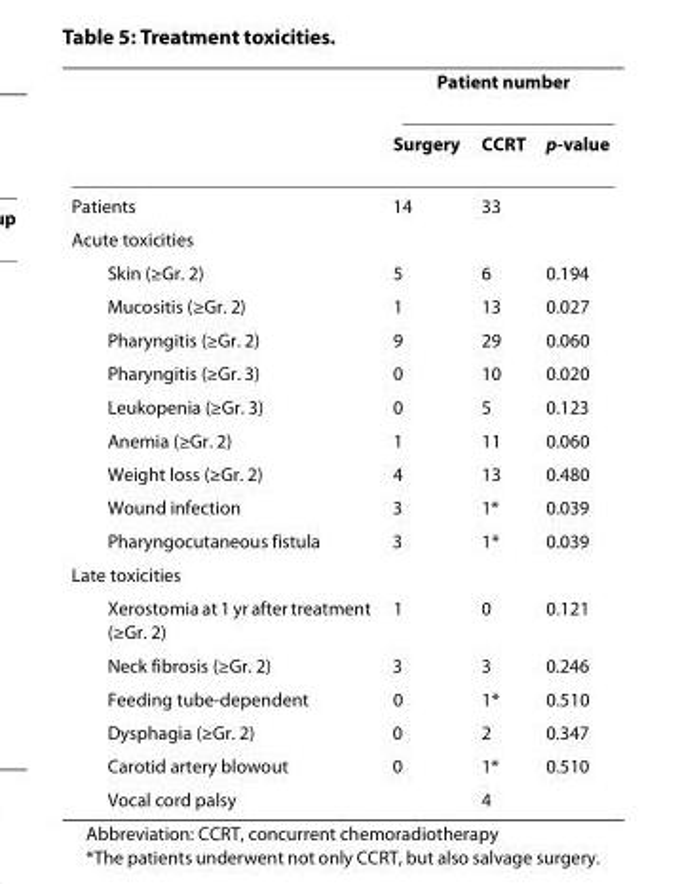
<table><thead><tr><td rowspan="2"></td><td colspan="3">Patient number</td></tr><tr><td>Surgery</td><td>CCRT</td><td>p-value</td></tr></thead><tbody><tr><td>Patients</td><td>14</td><td>33</td><td></td></tr><tr><td colspan="4">Acute toxicities</td></tr><tr><td>Skin (≥Gr. 2)</td><td>5</td><td>6</td><td>0.194</td></tr><tr><td>Mucositis (≥Gr. 2)</td><td>1</td><td>13</td><td>0.027</td></tr><tr><td>Pharyngitis (≥Gr. 2)</td><td>9</td><td>29</td><td>0.060</td></tr><tr><td>Pharyngitis (≥Gr. 3)</td><td>0</td><td>10</td><td>0.020</td></tr><tr><td>Leukopenia (≥Gr. 3)</td><td>0</td><td>5</td><td>0.123</td></tr><tr><td>Anemia (≥Gr. 2)</td><td>1</td><td>11</td><td>0.060</td></tr><tr><td>Weight loss (≥Gr. 2)</td><td>4</td><td>13</td><td>0.480</td></tr><tr><td>Wound infection</td><td>3</td><td>1*</td><td>0.039</td></tr><tr><td>Pharyngocutaneous fistula</td><td>3</td><td>1*</td><td>0.039</td></tr><tr><td colspan="4">Late toxicities</td></tr><tr><td>Xerostomia at 1 yr after treatment (≥Gr. 2)</td><td>1</td><td>0</td><td>0.121</td></tr><tr><td>Neck fibrosis (≥Gr. 2)</td><td>3</td><td>3</td><td>0.246</td></tr><tr><td>Feeding tube-dependent</td><td>0</td><td>1*</td><td>0.510</td></tr><tr><td>Dysphagia (≥Gr. 2)</td><td>0</td><td>2</td><td>0.347</td></tr><tr><td>Carotid artery blowout</td><td>0</td><td>1*</td><td>0.510</td></tr><tr><td>Vocal cord palsy</td><td></td><td>4</td><td></td></tr></tbody></table>